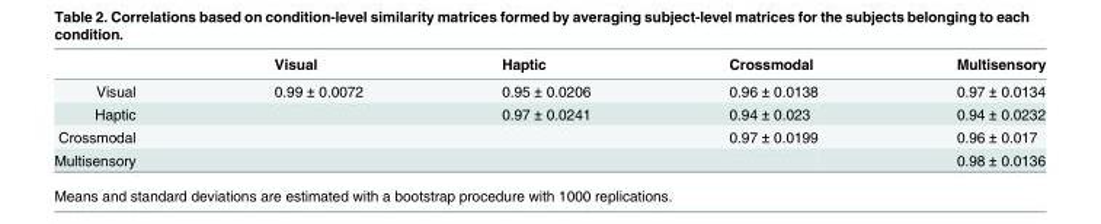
<table><thead><tr><td></td><td>Visual</td><td>Haptic</td><td>Crossmodal</td><td>Multisensory</td></tr></thead><tbody><tr><td>Visual</td><td>0.99 ± 0.0072</td><td>0.95 ± 0.0206</td><td>0.96 ± 0.0138</td><td>0.97 ± 0.0134</td></tr><tr><td>Haptic</td><td></td><td>0.97 ± 0.0241</td><td>0.94 ± 0.023</td><td>0.94 ± 0.0232</td></tr><tr><td>Crossmodal</td><td></td><td></td><td>0.97 ± 0.0199</td><td>0.96 ± 0.017</td></tr><tr><td>Multisensory</td><td></td><td></td><td></td><td>0.98 ± 0.0136</td></tr></tbody></table>